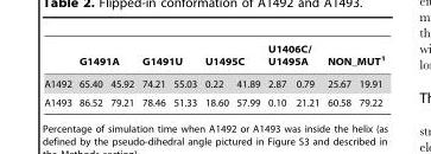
<table><thead><tr><td rowspan="2">A1492</td><td colspan="2">G1491A</td><td colspan="2">G1491U</td><td colspan="2">U1495C</td><td colspan="2">U1406C/ U1495A</td><td colspan="2">NON_MUT<sup>1</sup></td></tr><tr><td>65.40</td><td>45.92</td><td>74.21</td><td>55.03</td><td>0.22</td><td>41.89</td><td>2.87</td><td>0.79</td><td>25.67</td><td>19.91</td></tr></thead><tbody><tr><td>A1493</td><td>86.52</td><td>79.21</td><td>78.46</td><td>51.33</td><td>18.60</td><td>57.99</td><td>0.10</td><td>21.21</td><td>60.58</td><td>79.22</td></tr></tbody></table>